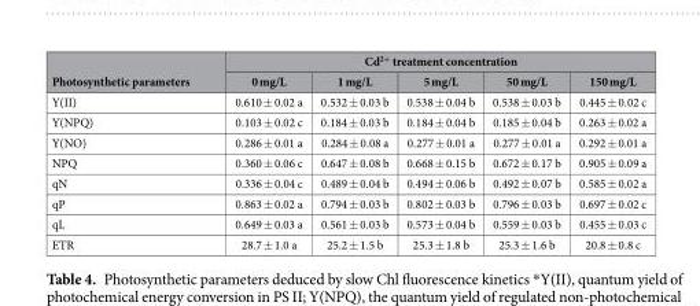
<table><thead><tr><td rowspan="2">Photosynthetic parameters</td><td colspan="5">Cd<sup>2+</sup> treatment concentration</td></tr><tr><td>0 mg/L</td><td>1 mg/L</td><td>5 mg/L</td><td>50 mg/L</td><td>150 mg/L</td></tr></thead><tbody><tr><td>Y(II)</td><td>0.610 ± 0.02 a</td><td>0.532 ± 0.03 b</td><td>0.538 ± 0.04 b</td><td>0.538 ± 0.03 b</td><td>0.445 ± 0.02 c</td></tr><tr><td>Y(NPQ)</td><td>0.103 ± 0.02 c</td><td>0.184 ± 0.03 b</td><td>0.184 ± 0.04 b</td><td>0.185 ± 0.04 b</td><td>0.263 ± 0.02 a</td></tr><tr><td>Y(NO)</td><td>0.286 ± 0.01 a</td><td>0.284 ± 0.08 a</td><td>0.277 ± 0.01 a</td><td>0.277 ± 0.01 a</td><td>0.292 ± 0.01 a</td></tr><tr><td>NPQ</td><td>0.360 ± 0.06 c</td><td>0.647 ± 0.08 b</td><td>0.668 ± 0.15 b</td><td>0.672 ± 0.17 b</td><td>0.905 ± 0.09 a</td></tr><tr><td>qN</td><td>0.336 ± 0.04 c</td><td>0.489 ± 0.04 b</td><td>0.494 ± 0.06 b</td><td>0.492 ± 0.07 b</td><td>0.585 ± 0.02 a</td></tr><tr><td>qP</td><td>0.863 ± 0.02 a</td><td>0.794 ± 0.03 b</td><td>0.802 ± 0.03 b</td><td>0.796 ± 0.03 b</td><td>0.697 ± 0.02 c</td></tr><tr><td>qL</td><td>0.649 ± 0.03 a</td><td>0.561 ± 0.03 b</td><td>0.573 ± 0.04 b</td><td>0.559 ± 0.03 b</td><td>0.455 ± 0.03 c</td></tr><tr><td>ETR</td><td>28.7 ± 1.0 a</td><td>25.2 ± 1.5 b</td><td>25.3 ± 1.8 b</td><td>25.3 ± 1.6 b</td><td>20.8 ± 0.8 c</td></tr></tbody></table>